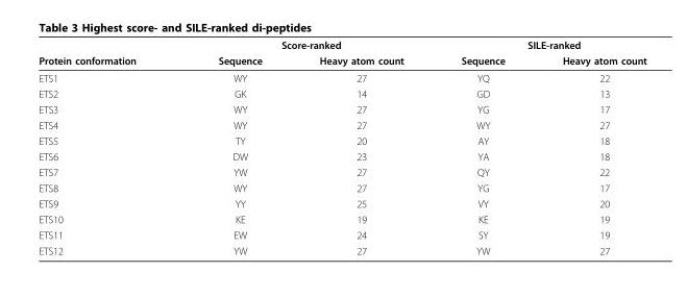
<table><thead><tr><td rowspan="2">Protein conformation</td><td colspan="2">Score-ranked</td><td colspan="2">SILE-ranked</td></tr><tr><td>Sequence</td><td>Heavy atom count</td><td>Sequence</td><td>Heavy atom count</td></tr></thead><tbody><tr><td>ETS1</td><td>WY</td><td>27</td><td>YQ</td><td>22</td></tr><tr><td>ETS2</td><td>GK</td><td>14</td><td>GD</td><td>13</td></tr><tr><td>ETS3</td><td>WY</td><td>27</td><td>YG</td><td>17</td></tr><tr><td>ETS4</td><td>WY</td><td>27</td><td>WY</td><td>27</td></tr><tr><td>ETS5</td><td>TY</td><td>20</td><td>AY</td><td>18</td></tr><tr><td>ETS6</td><td>DW</td><td>23</td><td>YA</td><td>18</td></tr><tr><td>ETS7</td><td>YW</td><td>27</td><td>QY</td><td>22</td></tr><tr><td>ETS8</td><td>WY</td><td>27</td><td>YG</td><td>17</td></tr><tr><td>ETS9</td><td>YY</td><td>25</td><td>VY</td><td>20</td></tr><tr><td>ETS10</td><td>KE</td><td>19</td><td>KE</td><td>19</td></tr><tr><td>ETS11</td><td>EW</td><td>24</td><td>SY</td><td>19</td></tr><tr><td>ETS12</td><td>YW</td><td>27</td><td>YW</td><td>27</td></tr></tbody></table>